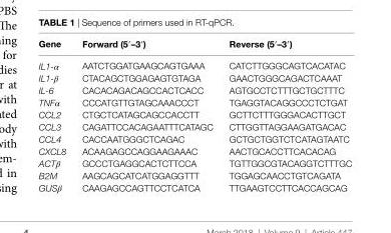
<table><thead><tr><td>gene</td><td>Forward (5′–3′)</td><td>reverse (5′–3′)</td></tr></thead><tbody><tr><td>IL1-α</td><td>AATCTGGATGAAGCAGTGAAA</td><td>CATCTTGGGCAGTCACATAC</td></tr><tr><td>IL1-β</td><td>CTACAGCTGGAGAGTGTAGA</td><td>GAACTGGGCAGACTCAAAT</td></tr><tr><td>IL-6</td><td>CACACAGACAGCCACTCACC</td><td>AGTGCCTCTTTGCTGCTTTC</td></tr><tr><td>TNFα</td><td>CCCATGTTGTAGCAAACCCT</td><td>TGAGGTACAGGCCCTCTGAT</td></tr><tr><td>CCL2</td><td>CTGCTCATAGCAGCCACCTT</td><td>GCTTCTTTGGGACACTTGCT</td></tr><tr><td>CCL3</td><td>CAGATTCCACAGAATTTCATAGC</td><td>CTTGGTTAGGAAGATGACAC</td></tr><tr><td>CCL4</td><td>CACCAATGGGCTCAGAC</td><td>GCTGCTGGTCTCATAGTAATC</td></tr><tr><td>CXCL8</td><td>ACAAGAGCCAGGAAGAAAC</td><td>AACTGCACCTTCACACAG</td></tr><tr><td>ACTβ</td><td>GCCCTGAGGCACTCTTCCA</td><td>TGTTGGCGTACAGGTCTTTGC</td></tr><tr><td>B2M</td><td>AAGCAGCATCATGGAGGTTT</td><td>TGGAGCAACCTGTCAGATA</td></tr><tr><td>GUSβ</td><td>CAAGAGCCAGTTCCTCATCA</td><td>TTGAAGTCCTTCACCAGCAG</td></tr></tbody></table>